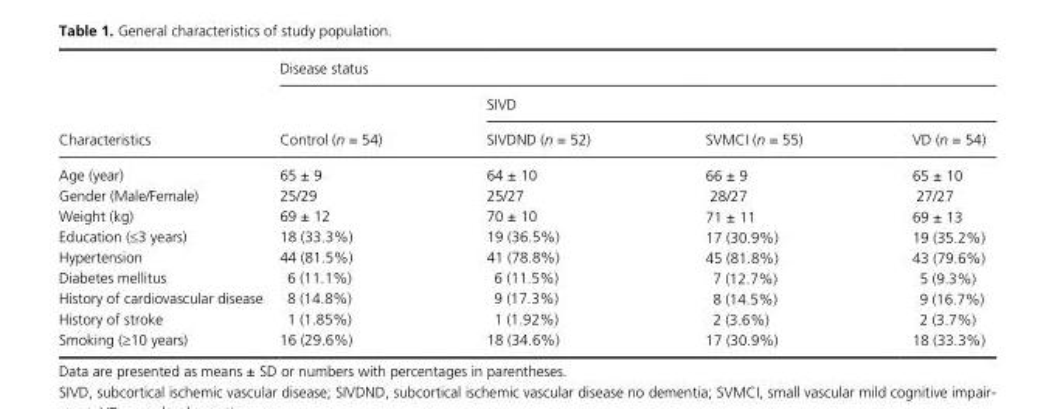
<table><thead><tr><td rowspan="3">Characteristics</td><td colspan="4">Disease status</td></tr><tr><td rowspan="2">Control (n = 54)</td><td colspan="3">SIVD</td></tr><tr><td>SIVDND (n = 52)</td><td>SVMCI (n = 55)</td><td>VD (n = 54)</td></tr></thead><tbody><tr><td>Age (year)</td><td>65 ± 9</td><td>64 ± 10</td><td>66 ± 9</td><td>65 ± 10</td></tr><tr><td>Gender (Male/Female)</td><td>25/29</td><td>25/27</td><td>28/27</td><td>27/27</td></tr><tr><td>Weight (kg)</td><td>69 ± 12</td><td>70 ± 10</td><td>71 ± 11</td><td>69 ± 13</td></tr><tr><td>Education (≤3 years)</td><td>18 (33.3%)</td><td>19 (36.5%)</td><td>17 (30.9%)</td><td>19 (35.2%)</td></tr><tr><td>Hypertension</td><td>44 (81.5%)</td><td>41 (78.8%)</td><td>45 (81.8%)</td><td>43 (79.6%)</td></tr><tr><td>Diabetes mellitus</td><td>6 (11.1%)</td><td>6 (11.5%)</td><td>7 (12.7%)</td><td>5 (9.3%)</td></tr><tr><td>History of cardiovascular disease</td><td>8 (14.8%)</td><td>9 (17.3%)</td><td>8 (14.5%)</td><td>9 (16.7%)</td></tr><tr><td>History of stroke</td><td>1 (1.85%)</td><td>1 (1.92%)</td><td>2 (3.6%)</td><td>2 (3.7%)</td></tr><tr><td>Smoking (≥10 years)</td><td>16 (29.6%)</td><td>18 (34.6%)</td><td>17 (30.9%)</td><td>18 (33.3%)</td></tr></tbody></table>